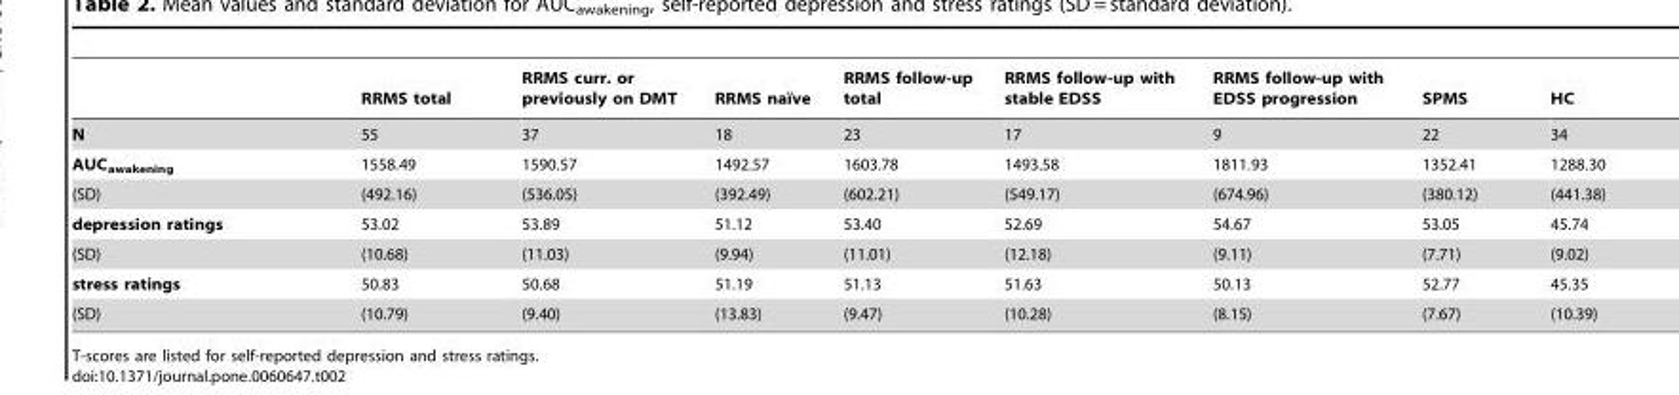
<table><thead><tr><td></td><td>RRMS total</td><td>RRMS curr. or previously on DMT</td><td>RRMS naı¨ve</td><td>RRMS follow-up total</td><td>RRMS follow-up with stable EDSS</td><td>RRMS follow-up with EDSS progression</td><td>SPMS</td><td>HC</td></tr></thead><tbody><tr><td>N</td><td>55</td><td>37</td><td>18</td><td>23</td><td>17</td><td>9</td><td>22</td><td>34</td></tr><tr><td>AUC<sub>awakening</sub></td><td>1558.49</td><td>1590.57</td><td>1492.57</td><td>1603.78</td><td>1493.58</td><td>1811.93</td><td>1352.41</td><td>1288.30</td></tr><tr><td>(SD)</td><td>(492.16)</td><td>(536.05)</td><td>(392.49)</td><td>(602.21)</td><td>(549.17)</td><td>(674.96)</td><td>(380.12)</td><td>(441.38)</td></tr><tr><td>depression ratings</td><td>53.02</td><td>53.89</td><td>51.12</td><td>53.40</td><td>52.69</td><td>54.67</td><td>53.05</td><td>45.74</td></tr><tr><td>(SD)</td><td>(10.68)</td><td>(11.03)</td><td>(9.94)</td><td>(11.01)</td><td>(12.18)</td><td>(9.11)</td><td>(7.71)</td><td>(9.02)</td></tr><tr><td>stress ratings</td><td>50.83</td><td>50.68</td><td>51.19</td><td>51.13</td><td>51.63</td><td>50.13</td><td>52.77</td><td>45.35</td></tr><tr><td>(SD)</td><td>(10.79)</td><td>(9.40)</td><td>(13.83)</td><td>(9.47)</td><td>(10.28)</td><td>(8.15)</td><td>(7.67)</td><td>(10.39)</td></tr></tbody></table>